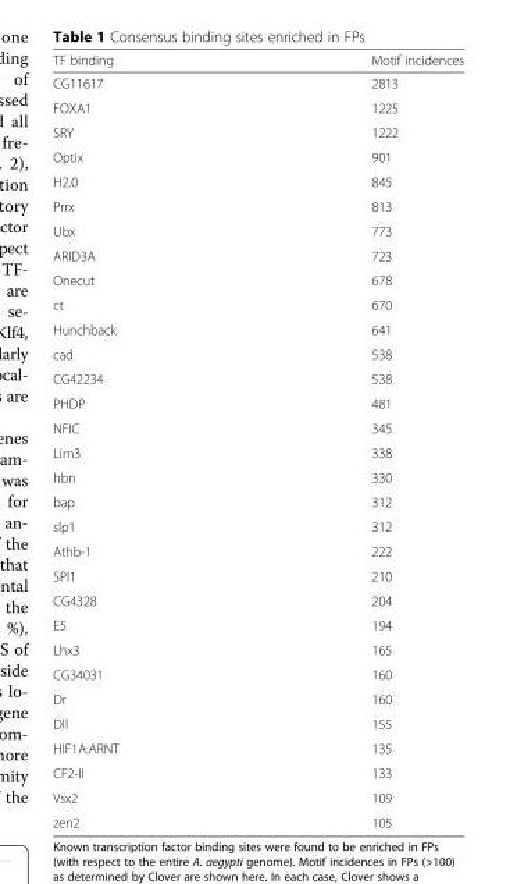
<table><thead><tr><td>TF binding</td><td>Motif incidences</td></tr></thead><tbody><tr><td>CG11617</td><td>2813</td></tr><tr><td>FOXA1</td><td>1225</td></tr><tr><td>SRY</td><td>1222</td></tr><tr><td>Optix</td><td>901</td></tr><tr><td>H2.0</td><td>845</td></tr><tr><td>Prrx</td><td>813</td></tr><tr><td>Ubx</td><td>773</td></tr><tr><td>ARID3A</td><td>723</td></tr><tr><td>Onecut</td><td>678</td></tr><tr><td>ct</td><td>670</td></tr><tr><td>Hunchback</td><td>641</td></tr><tr><td>cad</td><td>538</td></tr><tr><td>CG42234</td><td>538</td></tr><tr><td>PHDP</td><td>481</td></tr><tr><td>NFIC</td><td>345</td></tr><tr><td>Lim3</td><td>338</td></tr><tr><td>hbn</td><td>330</td></tr><tr><td>bap</td><td>312</td></tr><tr><td>slp1</td><td>312</td></tr><tr><td>Athb-1</td><td>222</td></tr><tr><td>SPI1</td><td>210</td></tr><tr><td>CG4328</td><td>204</td></tr><tr><td>E5</td><td>194</td></tr><tr><td>Lhx3</td><td>165</td></tr><tr><td>CG34031</td><td>160</td></tr><tr><td>Dr</td><td>160</td></tr><tr><td>Dll</td><td>155</td></tr><tr><td>HIF1A:ARNT</td><td>135</td></tr><tr><td>CF2-II</td><td>133</td></tr><tr><td>Vsx2</td><td>109</td></tr><tr><td>zen2</td><td>105</td></tr></tbody></table>